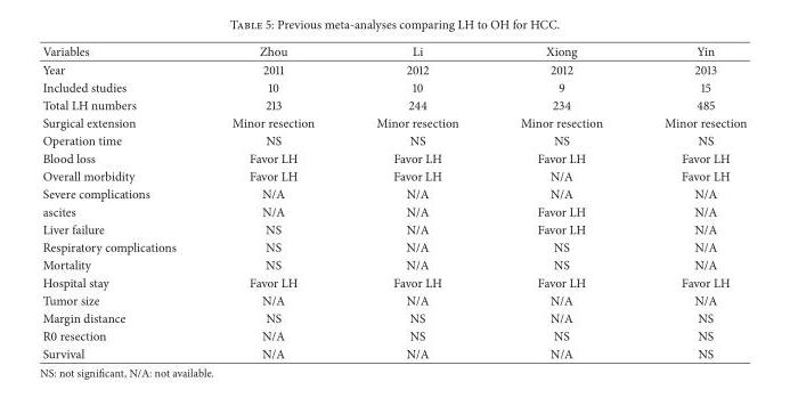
<table><thead><tr><td>Variables</td><td>Zhou</td><td>Li</td><td>Xiong</td><td>Yin</td></tr></thead><tbody><tr><td>Year</td><td>2011</td><td>2012</td><td>2012</td><td>2013</td></tr><tr><td>Included studies</td><td>10</td><td>10</td><td>9</td><td>15</td></tr><tr><td>Total LH numbers</td><td>213</td><td>244</td><td>234</td><td>485</td></tr><tr><td>Surgical extension</td><td>Minor resection</td><td>Minor resection</td><td>Minor resection</td><td>Minor resection</td></tr><tr><td>Operation time</td><td>NS</td><td>NS</td><td>NS</td><td>NS</td></tr><tr><td>Blood loss</td><td>Favor LH</td><td>Favor LH</td><td>Favor LH</td><td>Favor LH</td></tr><tr><td>Overall morbidity</td><td>Favor LH</td><td>Favor LH</td><td>N/A</td><td>Favor LH</td></tr><tr><td>Severe complications</td><td>N/A</td><td>N/A</td><td>N/A</td><td>N/A</td></tr><tr><td>ascites</td><td>N/A</td><td>N/A</td><td>Favor LH</td><td>N/A</td></tr><tr><td>Liver failure</td><td>NS</td><td>N/A</td><td>Favor LH</td><td>N/A</td></tr><tr><td>Respiratory complications</td><td>NS</td><td>N/A</td><td>NS</td><td>N/A</td></tr><tr><td>Mortality</td><td>NS</td><td>N/A</td><td>NS</td><td>N/A</td></tr><tr><td>Hospital stay</td><td>Favor LH</td><td>Favor LH</td><td>Favor LH</td><td>Favor LH</td></tr><tr><td>Tumor size</td><td>N/A</td><td>N/A</td><td>N/A</td><td>N/A</td></tr><tr><td>Margin distance</td><td>NS</td><td>NS</td><td>N/A</td><td>NS</td></tr><tr><td>R0 resection</td><td>N/A</td><td>NS</td><td>NS</td><td>NS</td></tr><tr><td>Survival</td><td>N/A</td><td>N/A</td><td>N/A</td><td>NS</td></tr></tbody></table>